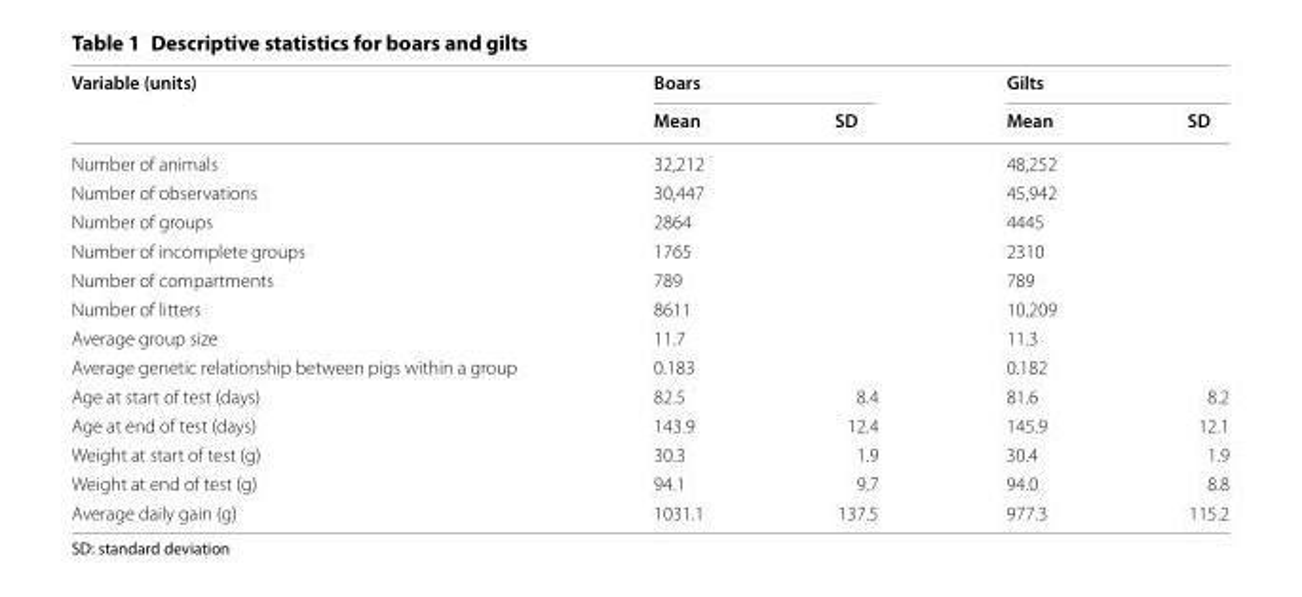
<table><thead><tr><td rowspan="2">Variable (units)</td><td colspan="2">Boars</td><td colspan="2">Gilts</td></tr><tr><td>Mean</td><td>SD</td><td>Mean</td><td>SD</td></tr></thead><tbody><tr><td>Number of animals</td><td>32,212</td><td></td><td>48,252</td><td></td></tr><tr><td>Number of observations</td><td>30,447</td><td></td><td>45,942</td><td></td></tr><tr><td>Number of groups</td><td>2864</td><td></td><td>4445</td><td></td></tr><tr><td>Number of incomplete groups</td><td>1765</td><td></td><td>2310</td><td></td></tr><tr><td>Number of compartments</td><td>789</td><td></td><td>789</td><td></td></tr><tr><td>Number of litters</td><td>8611</td><td></td><td>10,209</td><td></td></tr><tr><td>Average group size</td><td>11.7</td><td></td><td>11.3</td><td></td></tr><tr><td>Average genetic relationship between pigs within a group</td><td>0.183</td><td></td><td>0.182</td><td></td></tr><tr><td>Age at start of test (days)</td><td>82.5</td><td>8.4</td><td>81.6</td><td>8.2</td></tr><tr><td>Age at end of test (days)</td><td>143.9</td><td>12.4</td><td>145.9</td><td>12.1</td></tr><tr><td>Weight at start of test (g)</td><td>30.3</td><td>1.9</td><td>30.4</td><td>1.9</td></tr><tr><td>Weight at end of test (g)</td><td>94.1</td><td>9.7</td><td>94.0</td><td>8.8</td></tr><tr><td>Average daily gain (g)</td><td>1031.1</td><td>137.5</td><td>977.3</td><td>115.2</td></tr></tbody></table>